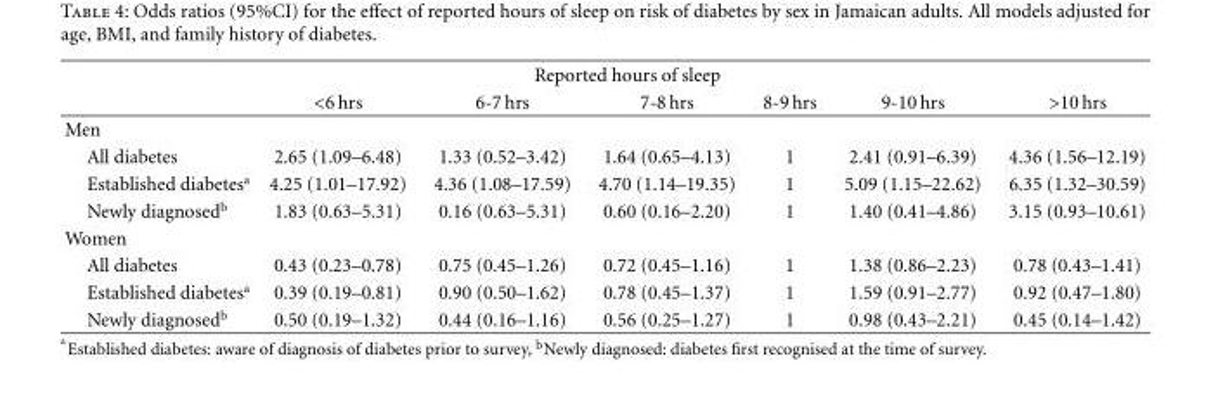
<table><thead><tr><td rowspan="2"></td><td colspan="6">Reported hours of sleep</td></tr><tr><td>&lt;6 hrs</td><td>6-7 hrs</td><td>7-8 hrs</td><td>8-9 hrs</td><td>9-10 hrs</td><td>&gt;10 hrs</td></tr></thead><tbody><tr><td colspan="7">Men</td></tr><tr><td>All diabetes</td><td>2.65 (1.09–6.48)</td><td>1.33 (0.52–3.42)</td><td>1.64 (0.65–4.13)</td><td>1</td><td>2.41 (0.91–6.39)</td><td>4.36 (1.56–12.19)</td></tr><tr><td>Established diabetes<sup>a</sup></td><td>4.25 (1.01–17.92)</td><td>4.36 (1.08–17.59)</td><td>4.70 (1.14–19.35)</td><td>1</td><td>5.09 (1.15–22.62)</td><td>6.35 (1.32–30.59)</td></tr><tr><td>Newly diagnosed<sup>b</sup></td><td>1.83 (0.63–5.31)</td><td>0.16 (0.63–5.31)</td><td>0.60 (0.16–2.20)</td><td>1</td><td>1.40 (0.41–4.86)</td><td>3.15 (0.93–10.61)</td></tr><tr><td colspan="7">Women</td></tr><tr><td>All diabetes</td><td>0.43 (0.23–0.78)</td><td>0.75 (0.45–1.26)</td><td>0.72 (0.45–1.16)</td><td>1</td><td>1.38 (0.86–2.23)</td><td>0.78 (0.43–1.41)</td></tr><tr><td>Established diabetes<sup>a</sup></td><td>0.39 (0.19–0.81)</td><td>0.90 (0.50–1.62)</td><td>0.78 (0.45–1.37)</td><td>1</td><td>1.59 (0.91–2.77)</td><td>0.92 (0.47–1.80)</td></tr><tr><td>Newly diagnosed<sup>b</sup></td><td>0.50 (0.19–1.32)</td><td>0.44 (0.16–1.16)</td><td>0.56 (0.25–1.27)</td><td>1</td><td>0.98 (0.43–2.21)</td><td>0.45 (0.14–1.42)</td></tr></tbody></table>